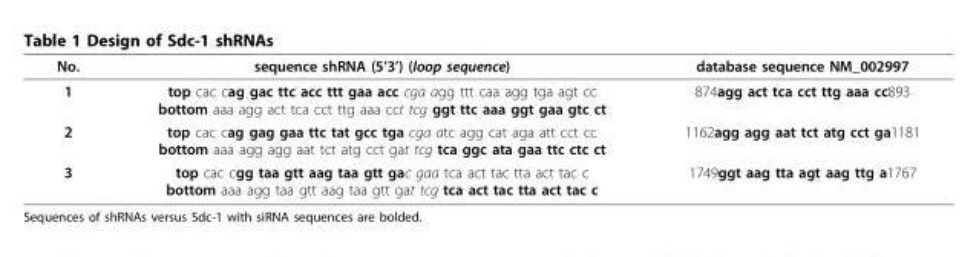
<table><thead><tr><td>No.</td><td>sequence shRNA (5’3’) (loop sequence)</td><td>database sequence NM_002997</td></tr></thead><tbody><tr><td>1</td><td>top cac cag gac ttc acc ttt gaa acc cga agg ttt caa agg tga agt cc bottom aaa agg act tca cct ttg aaa cct tcg ggt ttc aaa ggt gaa gtc ct</td><td>874agg act tca cct ttg aaa cc893</td></tr><tr><td>2</td><td>top cac cag gag gaa ttc tat gcc tga cga atc agg cat aga att cct cc bottom aaa agg agg aat tct atg cct gat tcg tca ggc ata gaa ttc ctc ct</td><td>1162agg agg aat tct atg cct ga1181</td></tr><tr><td>3</td><td>top cac cgg taa gtt aag taa gtt gac gaa tca act tac tta act tac c bottom aaa agg taa gtt aag taa gtt gat tcg tca act tac tta act tac c</td><td>1749ggt aag tta agt aag ttg a1767</td></tr></tbody></table>